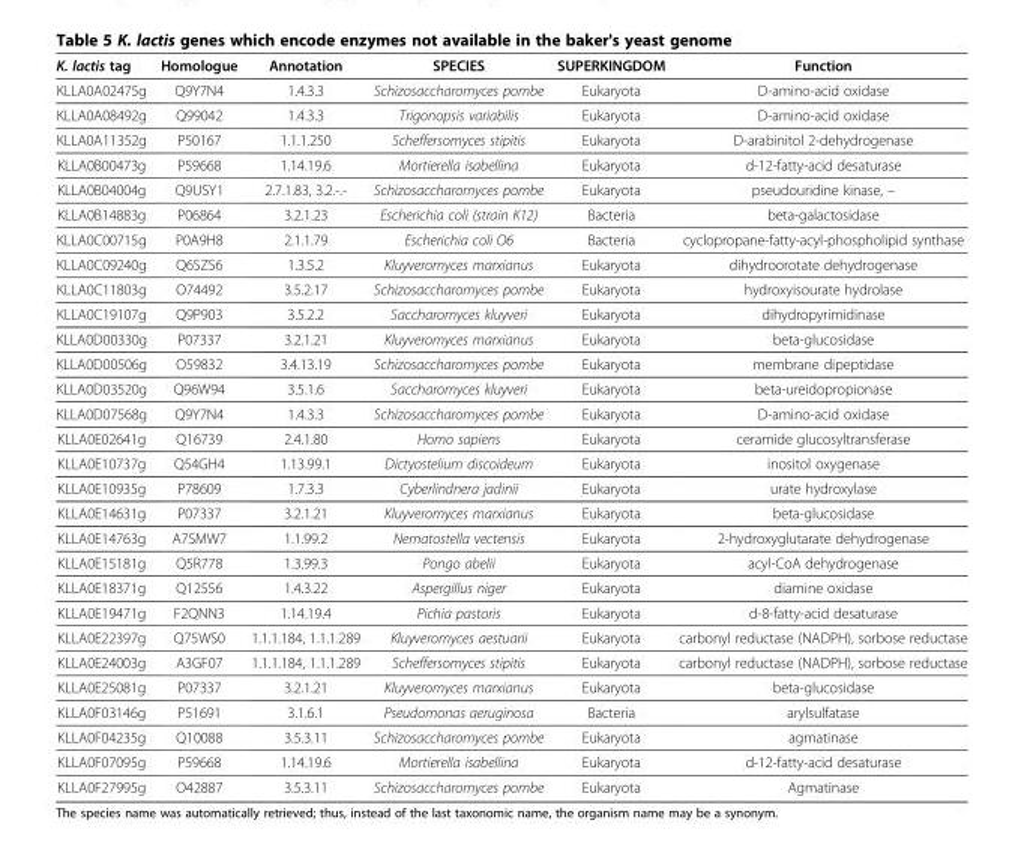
<table><thead><tr><td>K. lactis tag</td><td>Homologue</td><td>Annotation</td><td>SPECIES</td><td>SUPERKINGDOM</td><td>Function</td></tr></thead><tbody><tr><td>KLLA0A02475g</td><td>Q9Y7N4</td><td>1.4.3.3</td><td>Schizosaccharomyces pombe</td><td>Eukaryota</td><td>D-amino-acid oxidase</td></tr><tr><td>KLLA0A08492g</td><td>Q99042</td><td>1.4.3.3</td><td>Trigonopsis variabilis</td><td>Eukaryota</td><td>D-amino-acid oxidase</td></tr><tr><td>KLLA0A11352g</td><td>P50167</td><td>1.1.1.250</td><td>Scheffersomyces stipitis</td><td>Eukaryota</td><td>D-arabinitol 2-dehydrogenase</td></tr><tr><td>KLLA0B00473g</td><td>P59668</td><td>1.14.19.6</td><td>Mortierella isabellina</td><td>Eukaryota</td><td>d-12-fatty-acid desaturase</td></tr><tr><td>KLLA0B04004g</td><td>Q9USY1</td><td>2.7.1.83, 3.2.-.-</td><td>Schizosaccharomyces pombe</td><td>Eukaryota</td><td>pseudouridine kinase, –</td></tr><tr><td>KLLA0B14883g</td><td>P06864</td><td>3.2.1.23</td><td>Escherichia coli (strain K12)</td><td>Bacteria</td><td>beta-galactosidase</td></tr><tr><td>KLLA0C00715g</td><td>P0A9H8</td><td>2.1.1.79</td><td>Escherichia coli O6</td><td>Bacteria</td><td>cyclopropane-fatty-acyl-phospholipid synthase</td></tr><tr><td>KLLA0C09240g</td><td>Q6SZS6</td><td>1.3.5.2</td><td>Kluyveromyces marxianus</td><td>Eukaryota</td><td>dihydroorotate dehydrogenase</td></tr><tr><td>KLLA0C11803g</td><td>O74492</td><td>3.5.2.17</td><td>Schizosaccharomyces pombe</td><td>Eukaryota</td><td>hydroxyisourate hydrolase</td></tr><tr><td>KLLA0C19107g</td><td>Q9P903</td><td>3.5.2.2</td><td>Saccharomyces kluyveri</td><td>Eukaryota</td><td>dihydropyrimidinase</td></tr><tr><td>KLLA0D00330g</td><td>P07337</td><td>3.2.1.21</td><td>Kluyveromyces marxianus</td><td>Eukaryota</td><td>beta-glucosidase</td></tr><tr><td>KLLA0D00506g</td><td>O59832</td><td>3.4.13.19</td><td>Schizosaccharomyces pombe</td><td>Eukaryota</td><td>membrane dipeptidase</td></tr><tr><td>KLLA0D03520g</td><td>Q96W94</td><td>3.5.1.6</td><td>Saccharomyces kluyveri</td><td>Eukaryota</td><td>beta-ureidopropionase</td></tr><tr><td>KLLA0D07568g</td><td>Q9Y7N4</td><td>1.4.3.3</td><td>Schizosaccharomyces pombe</td><td>Eukaryota</td><td>D-amino-acid oxidase</td></tr><tr><td>KLLA0E02641g</td><td>Q16739</td><td>2.4.1.80</td><td>Homo sapiens</td><td>Eukaryota</td><td>ceramide glucosyltransferase</td></tr><tr><td>KLLA0E10737g</td><td>Q54GH4</td><td>1.13.99.1</td><td>Dictyostelium discoideum</td><td>Eukaryota</td><td>inositol oxygenase</td></tr><tr><td>KLLA0E10935g</td><td>P78609</td><td>1.7.3.3</td><td>Cyberlindnera jadinii</td><td>Eukaryota</td><td>urate hydroxylase</td></tr><tr><td>KLLA0E14631g</td><td>P07337</td><td>3.2.1.21</td><td>Kluyveromyces marxianus</td><td>Eukaryota</td><td>beta-glucosidase</td></tr><tr><td>KLLA0E14763g</td><td>A7SMW7</td><td>1.1.99.2</td><td>Nematostella vectensis</td><td>Eukaryota</td><td>2-hydroxyglutarate dehydrogenase</td></tr><tr><td>KLLA0E15181g</td><td>Q5R778</td><td>1.3.99.3</td><td>Pongo abelii</td><td>Eukaryota</td><td>acyl-CoA dehydrogenase</td></tr><tr><td>KLLA0E18371g</td><td>Q12556</td><td>1.4.3.22</td><td>Aspergillus niger</td><td>Eukaryota</td><td>diamine oxidase</td></tr><tr><td>KLLA0E19471g</td><td>F2QNN3</td><td>1.14.19.4</td><td>Pichia pastoris</td><td>Eukaryota</td><td>d-8-fatty-acid desaturase</td></tr><tr><td>KLLA0E22397g</td><td>Q75WS0</td><td>1.1.1.184, 1.1.1.289</td><td>Kluyveromyces aestuarii</td><td>Eukaryota</td><td>carbonyl reductase (NADPH), sorbose reductase</td></tr><tr><td>KLLA0E24003g</td><td>A3GF07</td><td>1.1.1.184, 1.1.1.289</td><td>Scheffersomyces stipitis</td><td>Eukaryota</td><td>carbonyl reductase (NADPH), sorbose reductase</td></tr><tr><td>KLLA0E25081g</td><td>P07337</td><td>3.2.1.21</td><td>Kluyveromyces marxianus</td><td>Eukaryota</td><td>beta-glucosidase</td></tr><tr><td>KLLA0F03146g</td><td>P51691</td><td>3.1.6.1</td><td>Pseudomonas aeruginosa</td><td>Bacteria</td><td>arylsulfatase</td></tr><tr><td>KLLA0F04235g</td><td>Q10088</td><td>3.5.3.11</td><td>Schizosaccharomyces pombe</td><td>Eukaryota</td><td>agmatinase</td></tr><tr><td>KLLA0F07095g</td><td>P59668</td><td>1.14.19.6</td><td>Mortierella isabellina</td><td>Eukaryota</td><td>d-12-fatty-acid desaturase</td></tr><tr><td>KLLA0F27995g</td><td>O42887</td><td>3.5.3.11</td><td>Schizosaccharomyces pombe</td><td>Eukaryota</td><td>Agmatinase</td></tr></tbody></table>